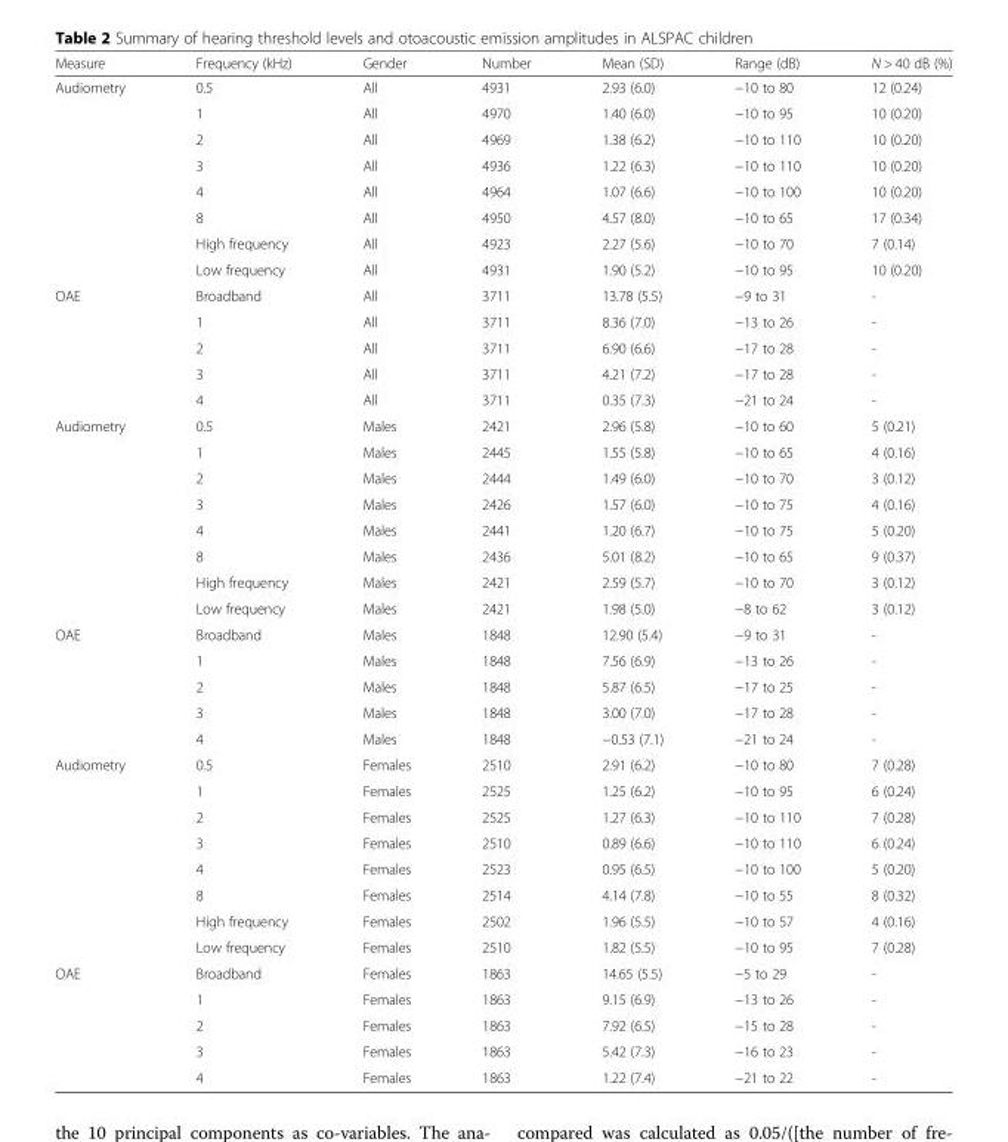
<table><thead><tr><td>Measure</td><td>Frequency (kHz)</td><td>Gender</td><td>Number</td><td>Mean (SD)</td><td>Range (dB)</td><td>N &gt; 40 dB (%)</td></tr></thead><tbody><tr><td rowspan="8">Audiometry</td><td>0.5</td><td>All</td><td>4931</td><td>2.93 (6.0)</td><td>−10 to 80</td><td>12 (0.24)</td></tr><tr><td>1</td><td>All</td><td>4970</td><td>1.40 (6.0)</td><td>−10 to 95</td><td>10 (0.20)</td></tr><tr><td>2</td><td>All</td><td>4969</td><td>1.38 (6.2)</td><td>−10 to 110</td><td>10 (0.20)</td></tr><tr><td>3</td><td>All</td><td>4936</td><td>1.22 (6.3)</td><td>−10 to 110</td><td>10 (0.20)</td></tr><tr><td>4</td><td>All</td><td>4964</td><td>1.07 (6.6)</td><td>−10 to 100</td><td>10 (0.20)</td></tr><tr><td>8</td><td>All</td><td>4950</td><td>4.57 (8.0)</td><td>−10 to 65</td><td>17 (0.34)</td></tr><tr><td>High frequency</td><td>All</td><td>4923</td><td>2.27 (5.6)</td><td>−10 to 70</td><td>7 (0.14)</td></tr><tr><td>Low frequency</td><td>All</td><td>4931</td><td>1.90 (5.2)</td><td>−10 to 95</td><td>10 (0.20)</td></tr><tr><td rowspan="5">OAE</td><td>Broadband</td><td>All</td><td>3711</td><td>13.78 (5.5)</td><td>−9 to 31</td><td>-</td></tr><tr><td>1</td><td>All</td><td>3711</td><td>8.36 (7.0)</td><td>−13 to 26</td><td>-</td></tr><tr><td>2</td><td>All</td><td>3711</td><td>6.90 (6.6)</td><td>−17 to 28</td><td>-</td></tr><tr><td>3</td><td>All</td><td>3711</td><td>4.21 (7.2)</td><td>−17 to 28</td><td>-</td></tr><tr><td>4</td><td>All</td><td>3711</td><td>0.35 (7.3)</td><td>−21 to 24</td><td>-</td></tr><tr><td rowspan="8">Audiometry</td><td>0.5</td><td>Males</td><td>2421</td><td>2.96 (5.8)</td><td>−10 to 60</td><td>5 (0.21)</td></tr><tr><td>1</td><td>Males</td><td>2445</td><td>1.55 (5.8)</td><td>−10 to 65</td><td>4 (0.16)</td></tr><tr><td>2</td><td>Males</td><td>2444</td><td>1.49 (6.0)</td><td>−10 to 70</td><td>3 (0.12)</td></tr><tr><td>3</td><td>Males</td><td>2426</td><td>1.57 (6.0)</td><td>−10 to 75</td><td>4 (0.16)</td></tr><tr><td>4</td><td>Males</td><td>2441</td><td>1.20 (6.7)</td><td>−10 to 75</td><td>5 (0.20)</td></tr><tr><td>8</td><td>Males</td><td>2436</td><td>5.01 (8.2)</td><td>−10 to 65</td><td>9 (0.37)</td></tr><tr><td>High frequency</td><td>Males</td><td>2421</td><td>2.59 (5.7)</td><td>−10 to 70</td><td>3 (0.12)</td></tr><tr><td>Low frequency</td><td>Males</td><td>2421</td><td>1.98 (5.0)</td><td>−8 to 62</td><td>3 (0.12)</td></tr><tr><td rowspan="5">OAE</td><td>Broadband</td><td>Males</td><td>1848</td><td>12.90 (5.4)</td><td>−9 to 31</td><td>-</td></tr><tr><td>1</td><td>Males</td><td>1848</td><td>7.56 (6.9)</td><td>−13 to 26</td><td>-</td></tr><tr><td>2</td><td>Males</td><td>1848</td><td>5.87 (6.5)</td><td>−17 to 25</td><td>-</td></tr><tr><td>3</td><td>Males</td><td>1848</td><td>3.00 (7.0)</td><td>−17 to 28</td><td>-</td></tr><tr><td>4</td><td>Males</td><td>1848</td><td>−0.53 (7.1)</td><td>−21 to 24</td><td>-</td></tr><tr><td rowspan="8">Audiometry</td><td>0.5</td><td>Females</td><td>2510</td><td>2.91 (6.2)</td><td>−10 to 80</td><td>7 (0.28)</td></tr><tr><td>1</td><td>Females</td><td>2525</td><td>1.25 (6.2)</td><td>−10 to 95</td><td>6 (0.24)</td></tr><tr><td>2</td><td>Females</td><td>2525</td><td>1.27 (6.3)</td><td>−10 to 110</td><td>7 (0.28)</td></tr><tr><td>3</td><td>Females</td><td>2510</td><td>0.89 (6.6)</td><td>−10 to 110</td><td>6 (0.24)</td></tr><tr><td>4</td><td>Females</td><td>2523</td><td>0.95 (6.5)</td><td>−10 to 100</td><td>5 (0.20)</td></tr><tr><td>8</td><td>Females</td><td>2514</td><td>4.14 (7.8)</td><td>−10 to 55</td><td>8 (0.32)</td></tr><tr><td>High frequency</td><td>Females</td><td>2502</td><td>1.96 (5.5)</td><td>−10 to 57</td><td>4 (0.16)</td></tr><tr><td>Low frequency</td><td>Females</td><td>2510</td><td>1.82 (5.5)</td><td>−10 to 95</td><td>7 (0.28)</td></tr><tr><td rowspan="5">OAE</td><td>Broadband</td><td>Females</td><td>1863</td><td>14.65 (5.5)</td><td>−5 to 29</td><td>-</td></tr><tr><td>1</td><td>Females</td><td>1863</td><td>9.15 (6.9)</td><td>−13 to 26</td><td>-</td></tr><tr><td>2</td><td>Females</td><td>1863</td><td>7.92 (6.5)</td><td>−15 to 28</td><td>-</td></tr><tr><td>3</td><td>Females</td><td>1863</td><td>5.42 (7.3)</td><td>−16 to 23</td><td>-</td></tr><tr><td>4</td><td>Females</td><td>1863</td><td>1.22 (7.4)</td><td>−21 to 22</td><td>-</td></tr></tbody></table>